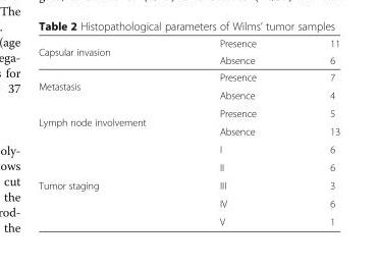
<table><thead><tr><td rowspan="2">Capsular invasion</td><td rowspan="2">Presence Absence</td><td rowspan="2">11 6</td></tr><tr></tr></thead><tbody><tr><td rowspan="2">Metastasis</td><td>Presence</td><td>7</td></tr><tr><td>Absence</td><td>4</td></tr><tr><td rowspan="2">Lymph node involvement</td><td>Presence</td><td>5</td></tr><tr><td>Absence</td><td>13</td></tr><tr><td rowspan="5">Tumor staging</td><td>I</td><td>6</td></tr><tr><td>II</td><td>6</td></tr><tr><td>III</td><td>3</td></tr><tr><td>IV</td><td>6</td></tr><tr><td>V</td><td>1</td></tr></tbody></table>